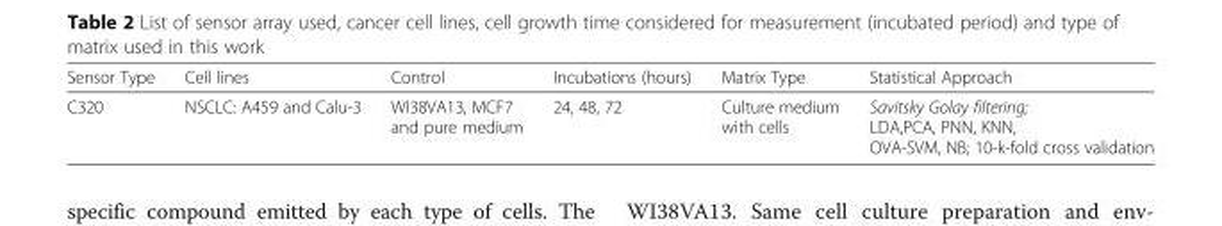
<table><thead><tr><td>Sensor Type</td><td>Cell lines</td><td>Control</td><td>Incubations (hours)</td><td>Matrix Type</td><td>Statistical Approach</td></tr></thead><tbody><tr><td>C320</td><td>NSCLC: A459 and Calu-3</td><td>WI38VA13, MCF7 and pure medium</td><td>24, 48, 72</td><td>Culture medium with cells</td><td>Savitsky Golay filtering; LDA,PCA, PNN, KNN, OVA-SVM, NB; 10-k-fold cross validation</td></tr></tbody></table>